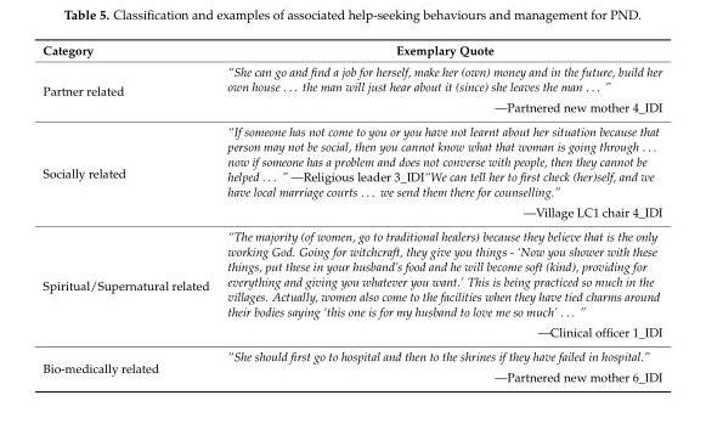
<table><thead><tr><td>Category</td><td>Exemplary Quote</td></tr></thead><tbody><tr><td>Partner related</td><td>“She can go and find a job for herself, make her (own) money and in the future, build her own house . . . the man will just hear about it (since) she leaves the man . . . ” —Partnered new mother 4_IDI</td></tr><tr><td>Socially related</td><td>“If someone has not come to you or you have not learnt about her situation because that person may not be social, then you cannot know what that woman is going through . . . now if someone has a problem and does not converse with people, then they cannot be helped . . . ” —Religious leader 3_IDI“We can tell her to first check (her)self, and we have local marriage courts . . . we send them there for counselling.” —Village LC1 chair 4_IDI</td></tr><tr><td>Spiritual/Supernatural related</td><td>“The majority (of women, go to traditional healers) because they believe that is the only working God. Going for witchcraft, they give you things - ‘Now you shower with these things, put these in your husband’s food and he will become soft (kind), providing for everything and giving you whatever you want.’ This is being practiced so much in the villages. Actually, women also come to the facilities when they have tied charms around their bodies saying ‘this one is for my husband to love me so much’ . . . ” —Clinical officer 1_IDI</td></tr><tr><td>Bio-medically related</td><td>“She should first go to hospital and then to the shrines if they have failed in hospital.” —Partnered new mother 6_IDI</td></tr></tbody></table>